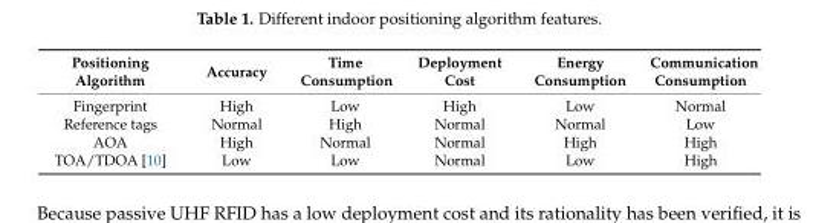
<table><thead><tr><td>Positioning Algorithm</td><td>Accuracy</td><td>Time Consumption</td><td>Deployment Cost</td><td>Energy Consumption</td><td>Communication Consumption</td></tr></thead><tbody><tr><td>Fingerprint</td><td>High</td><td>Low</td><td>High</td><td>Low</td><td>Normal</td></tr><tr><td>Reference tags</td><td>Normal</td><td>High</td><td>Normal</td><td>Normal</td><td>Low</td></tr><tr><td>AOA</td><td>High</td><td>Normal</td><td>Normal</td><td>High</td><td>High</td></tr><tr><td>TOA/TDOA [10]</td><td>Low</td><td>Low</td><td>Normal</td><td>Low</td><td>High</td></tr></tbody></table>